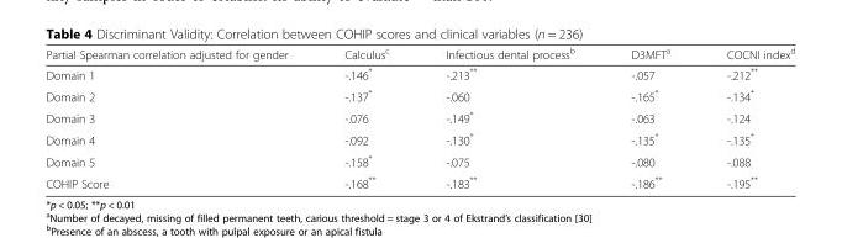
<table><thead><tr><td>Partial Spearman correlation adjusted for gender</td><td>Calculus<sup>c</sup></td><td>Infectious dental process<sup>b</sup></td><td>D3MFT<sup>a</sup></td><td>COCNI index<sup>d</sup></td></tr></thead><tbody><tr><td>Domain 1</td><td>-.146*</td><td>-.213**</td><td>-.057</td><td>-.212**</td></tr><tr><td>Domain 2</td><td>-.137*</td><td>-.060</td><td>-.165*</td><td>-.134*</td></tr><tr><td>Domain 3</td><td>-.076</td><td>-.149*</td><td>-.063</td><td>-.124</td></tr><tr><td>Domain 4</td><td>-.092</td><td>-.130*</td><td>-.135*</td><td>-.135*</td></tr><tr><td>Domain 5</td><td>-.158*</td><td>-.075</td><td>-.080</td><td>-.088</td></tr><tr><td>COHIP Score</td><td>-.168**</td><td>-.183**</td><td>-.186**</td><td>-.195**</td></tr></tbody></table>